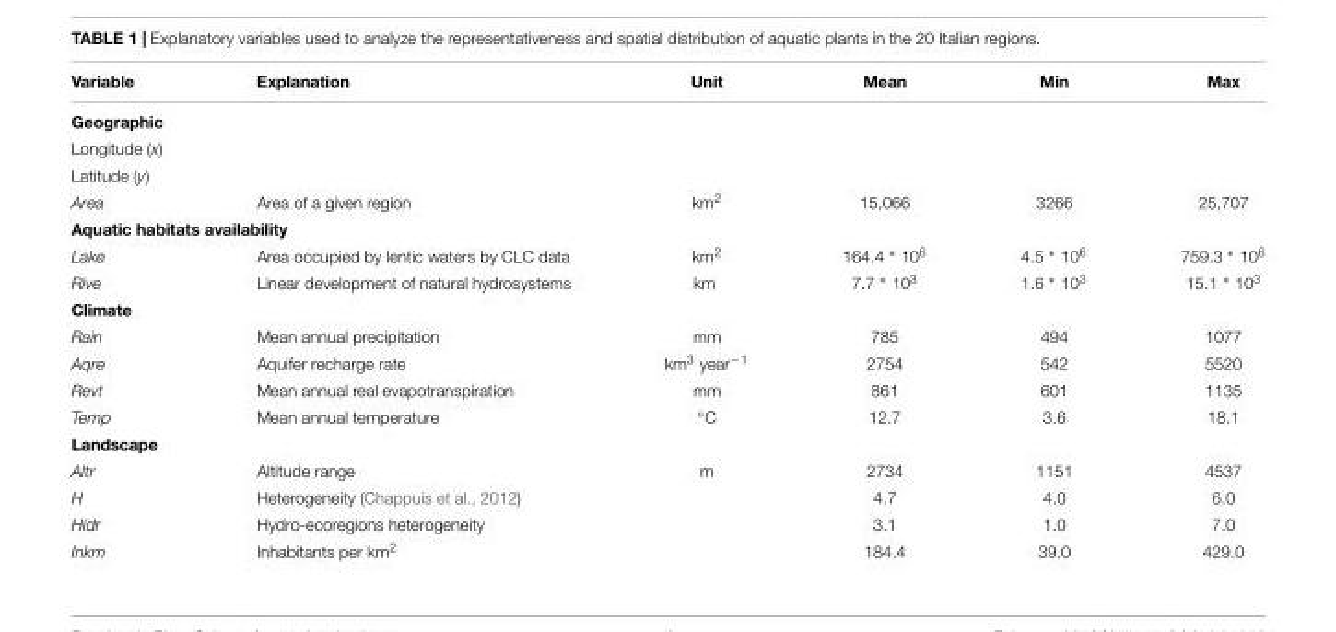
<table><thead><tr><td>Variable</td><td>Explanation</td><td>Unit</td><td>Mean</td><td>Min</td><td>Max</td></tr></thead><tbody><tr><td colspan="6">Geographic</td></tr><tr><td colspan="6">Longitude (x)</td></tr><tr><td colspan="6">Latitude (y)</td></tr><tr><td>Area</td><td>Area of a given region</td><td>km<sup>2</sup></td><td>15,066</td><td>3266</td><td>25,707</td></tr><tr><td colspan="6">Aquatic habitats availability</td></tr><tr><td>Lake</td><td>Area occupied by lentic waters by CLC data</td><td>km<sup>2</sup></td><td>164.4 ∗ 10<sup>6</sup></td><td>4.5 ∗ 10<sup>6</sup></td><td>759.3 ∗ 10<sup>6</sup></td></tr><tr><td>Rive</td><td>Linear development of natural hydrosystems</td><td>km</td><td>7.7 ∗ 10<sup>3</sup></td><td>1.6 ∗ 10<sup>3</sup></td><td>15.1 ∗ 10<sup>3</sup></td></tr><tr><td colspan="6">Climate</td></tr><tr><td>Rain</td><td>Mean annual precipitation</td><td>mm</td><td>785</td><td>494</td><td>1077</td></tr><tr><td>Aqre</td><td>Aquifer recharge rate</td><td>km<sup>3</sup> year<sup>−1</sup></td><td>2754</td><td>542</td><td>5520</td></tr><tr><td>Revt</td><td>Mean annual real evapotranspiration</td><td>mm</td><td>861</td><td>601</td><td>1135</td></tr><tr><td>Temp</td><td>Mean annual temperature</td><td>◦C</td><td>12.7</td><td>3.6</td><td>18.1</td></tr><tr><td colspan="6">Landscape</td></tr><tr><td>Altr</td><td>Altitude range</td><td>m</td><td>2734</td><td>1151</td><td>4537</td></tr><tr><td>H</td><td>Heterogeneity (Chappuis et al., 2012)</td><td></td><td>4.7</td><td>4.0</td><td>6.0</td></tr><tr><td>Hidr</td><td>Hydro-ecoregions heterogeneity</td><td></td><td>3.1</td><td>1.0</td><td>7.0</td></tr><tr><td>Inkm</td><td>Inhabitants per km<sup>2</sup></td><td></td><td>184.4</td><td>39.0</td><td>429.0</td></tr></tbody></table>